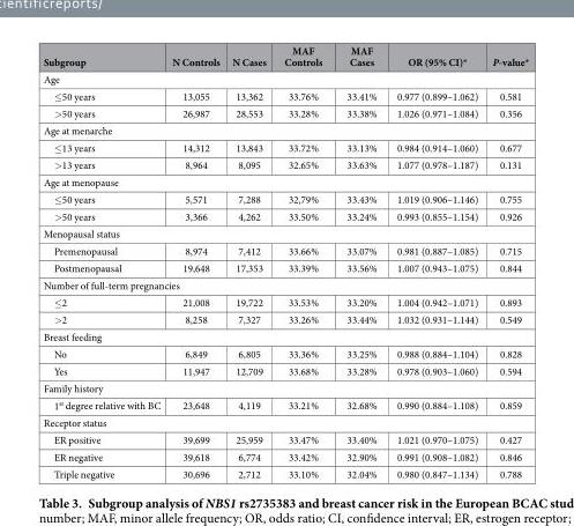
<table><thead><tr><td>Subgroup</td><td>N Controls</td><td>N Cases</td><td>MAF Controls</td><td>MAF Cases</td><td>OR (95% CI)*</td><td>P-value*</td></tr></thead><tbody><tr><td colspan="7">Age</td></tr><tr><td>≤ 50 years</td><td>13,055</td><td>13,362</td><td>33.76%</td><td>33.41%</td><td>0.977 (0.899–1.062)</td><td>0.581</td></tr><tr><td>&gt; 50 years</td><td>26,987</td><td>28,553</td><td>33.28%</td><td>33.38%</td><td>1.026 (0.971–1.084)</td><td>0.356</td></tr><tr><td colspan="7">Age at menarche</td></tr><tr><td>≤ 13 years</td><td>14,312</td><td>13,843</td><td>33.72%</td><td>33.13%</td><td>0.984 (0.914–1.060)</td><td>0.677</td></tr><tr><td>&gt; 13 years</td><td>8,964</td><td>8,095</td><td>32.65%</td><td>33.63%</td><td>1.077 (0.978–1.187)</td><td>0.131</td></tr><tr><td colspan="7">Age at menopause</td></tr><tr><td>≤ 50 years</td><td>5,571</td><td>7,288</td><td>32,79%</td><td>33.43%</td><td>1.019 (0.906–1.146)</td><td>0.755</td></tr><tr><td>&gt; 50 years</td><td>3,366</td><td>4,262</td><td>33.50%</td><td>33.24%</td><td>0.993 (0.855–1.154)</td><td>0.926</td></tr><tr><td colspan="7">Menopausal status</td></tr><tr><td>Premenopausal</td><td>8,974</td><td>7,412</td><td>33.66%</td><td>33.07%</td><td>0.981 (0.887–1.085)</td><td>0.715</td></tr><tr><td>Postmenopausal</td><td>19,648</td><td>17,353</td><td>33.39%</td><td>33.56%</td><td>1.007 (0.943–1.075)</td><td>0.844</td></tr><tr><td colspan="7">Number of full-term pregnancies</td></tr><tr><td>≤ 2</td><td>21,008</td><td>19,722</td><td>33.53%</td><td>33.20%</td><td>1.004 (0.942–1.071)</td><td>0.893</td></tr><tr><td>&gt; 2</td><td>8,258</td><td>7,327</td><td>33.26%</td><td>33.44%</td><td>1.032 (0.931–1.144)</td><td>0.549</td></tr><tr><td colspan="7">Breast feeding</td></tr><tr><td>No</td><td>6,849</td><td>6,805</td><td>33.36%</td><td>33.25%</td><td>0.988 (0.884–1.104)</td><td>0.828</td></tr><tr><td>Yes</td><td>11,947</td><td>12,709</td><td>33.68%</td><td>33.28%</td><td>0.978 (0.903–1.060)</td><td>0.594</td></tr><tr><td colspan="7">Family history</td></tr><tr><td>1<sup>st</sup> degree relative with BC</td><td>23,648</td><td>4,119</td><td>33.21%</td><td>32.68%</td><td>0.990 (0.884–1.108)</td><td>0.859</td></tr><tr><td colspan="7">Receptor status</td></tr><tr><td>ER positive</td><td>39,699</td><td>25,959</td><td>33.47%</td><td>33.40%</td><td>1.021 (0.970–1.075)</td><td>0.427</td></tr><tr><td>ER negative</td><td>39,618</td><td>6,774</td><td>33.42%</td><td>32.90%</td><td>0.991 (0.908–1.082)</td><td>0.846</td></tr><tr><td>Triple negative</td><td>30,696</td><td>2,712</td><td>33.10%</td><td>32.04%</td><td>0.980 (0.847–1.134)</td><td>0.788</td></tr></tbody></table>